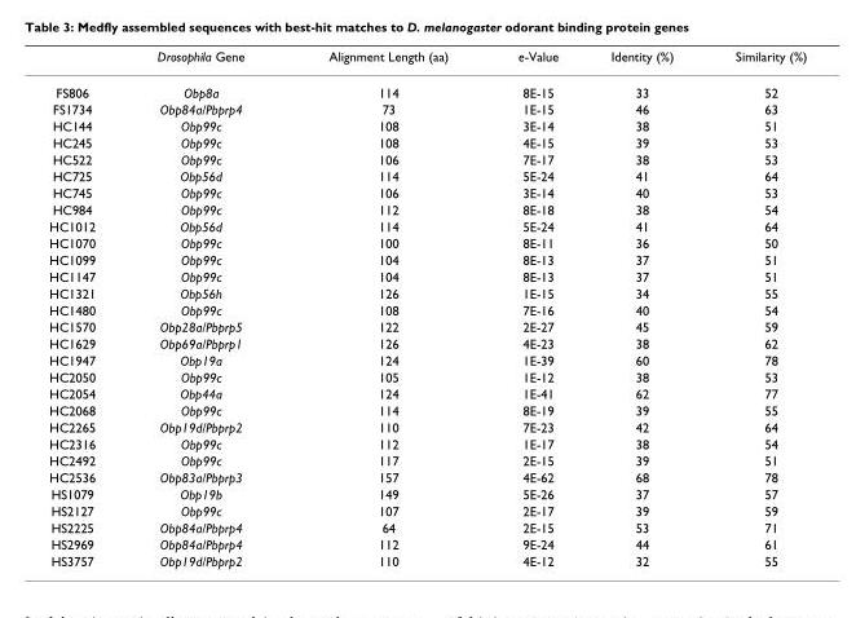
<table><thead><tr><td></td><td>Drosophila Gene</td><td>Alignment Length (aa)</td><td>e-Value</td><td>Identity (%)</td><td>Similarity (%)</td></tr></thead><tbody><tr><td>FS806</td><td>Obp8a</td><td>114</td><td>8E-15</td><td>33</td><td>52</td></tr><tr><td>FS1734</td><td>Obp84a/Pbprp4</td><td>73</td><td>1E-15</td><td>46</td><td>63</td></tr><tr><td>HC144</td><td>Obp99c</td><td>108</td><td>3E-14</td><td>38</td><td>51</td></tr><tr><td>HC245</td><td>Obp99c</td><td>108</td><td>4E-15</td><td>39</td><td>53</td></tr><tr><td>HC522</td><td>Obp99c</td><td>106</td><td>7E-17</td><td>38</td><td>53</td></tr><tr><td>HC725</td><td>Obp56d</td><td>114</td><td>5E-24</td><td>41</td><td>64</td></tr><tr><td>HC745</td><td>Obp99c</td><td>106</td><td>3E-14</td><td>40</td><td>53</td></tr><tr><td>HC984</td><td>Obp99c</td><td>112</td><td>8E-18</td><td>38</td><td>54</td></tr><tr><td>HC1012</td><td>Obp56d</td><td>114</td><td>5E-24</td><td>41</td><td>64</td></tr><tr><td>HC1070</td><td>Obp99c</td><td>100</td><td>8E-11</td><td>36</td><td>50</td></tr><tr><td>HC1099</td><td>Obp99c</td><td>104</td><td>8E-13</td><td>37</td><td>51</td></tr><tr><td>HC1147</td><td>Obp99c</td><td>104</td><td>8E-13</td><td>37</td><td>51</td></tr><tr><td>HC1321</td><td>Obp56h</td><td>126</td><td>1E-15</td><td>34</td><td>55</td></tr><tr><td>HC1480</td><td>Obp99c</td><td>108</td><td>7E-16</td><td>40</td><td>54</td></tr><tr><td>HC1570</td><td>Obp28a/Pbprp5</td><td>122</td><td>2E-27</td><td>45</td><td>59</td></tr><tr><td>HC1629</td><td>Obp69a/Pbprp1</td><td>126</td><td>4E-23</td><td>38</td><td>62</td></tr><tr><td>HC1947</td><td>Obp19a</td><td>124</td><td>1E-39</td><td>60</td><td>78</td></tr><tr><td>HC2050</td><td>Obp99c</td><td>105</td><td>1E-12</td><td>38</td><td>53</td></tr><tr><td>HC2054</td><td>Obp44a</td><td>124</td><td>1E-41</td><td>62</td><td>77</td></tr><tr><td>HC2068</td><td>Obp99c</td><td>114</td><td>8E-19</td><td>39</td><td>55</td></tr><tr><td>HC2265</td><td>Obp19d/Pbprp2</td><td>110</td><td>7E-23</td><td>42</td><td>64</td></tr><tr><td>HC2316</td><td>Obp99c</td><td>112</td><td>1E-17</td><td>38</td><td>54</td></tr><tr><td>HC2492</td><td>Obp99c</td><td>117</td><td>2E-15</td><td>39</td><td>51</td></tr><tr><td>HC2536</td><td>Obp83a/Pbprp3</td><td>157</td><td>4E-62</td><td>68</td><td>78</td></tr><tr><td>HS1079</td><td>Obp19b</td><td>149</td><td>5E-26</td><td>37</td><td>57</td></tr><tr><td>HS2127</td><td>Obp99c</td><td>107</td><td>2E-17</td><td>39</td><td>59</td></tr><tr><td>HS2225</td><td>Obp84a/Pbprp4</td><td>64</td><td>2E-15</td><td>53</td><td>71</td></tr><tr><td>HS2969</td><td>Obp84a/Pbprp4</td><td>112</td><td>9E-24</td><td>44</td><td>61</td></tr><tr><td>HS3757</td><td>Obp19d/Pbprp2</td><td>110</td><td>4E-12</td><td>32</td><td>55</td></tr></tbody></table>